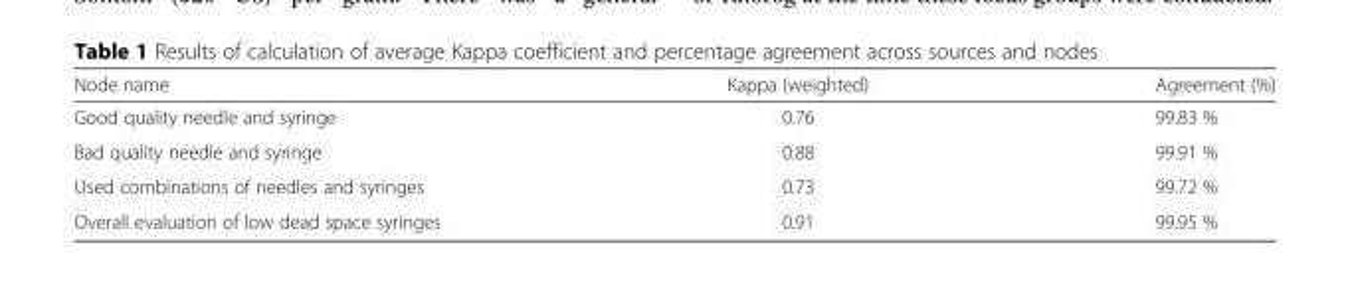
<table><thead><tr><td>Node name</td><td>Kappa (weighted)</td><td>Agreement (%)</td></tr></thead><tbody><tr><td>Good quality needle and syringe</td><td>0.76</td><td>99.83 %</td></tr><tr><td>Bad quality needle and syringe</td><td>0.88</td><td>99.91 %</td></tr><tr><td>Used combinations of needles and syringes</td><td>0.73</td><td>99.72 %</td></tr><tr><td>Overall evaluation of low dead space syringes</td><td>0.91</td><td>99.95 %</td></tr></tbody></table>